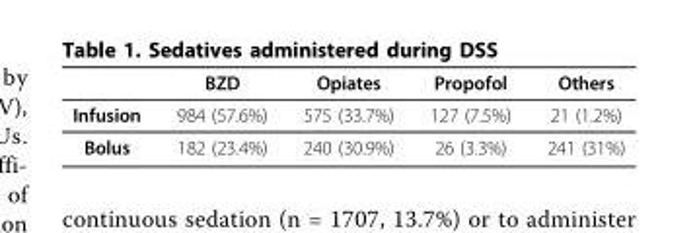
<table><thead><tr><td></td><td>BZD</td><td>Opiates</td><td>Propofol</td><td>Others</td></tr></thead><tbody><tr><td>Infusion</td><td>984 (57.6%)</td><td>575 (33.7%)</td><td>127 (7.5%)</td><td>21 (1.2%)</td></tr><tr><td>Bolus</td><td>182 (23.4%)</td><td>240 (30.9%)</td><td>26 (3.3%)</td><td>241 (31%)</td></tr></tbody></table>